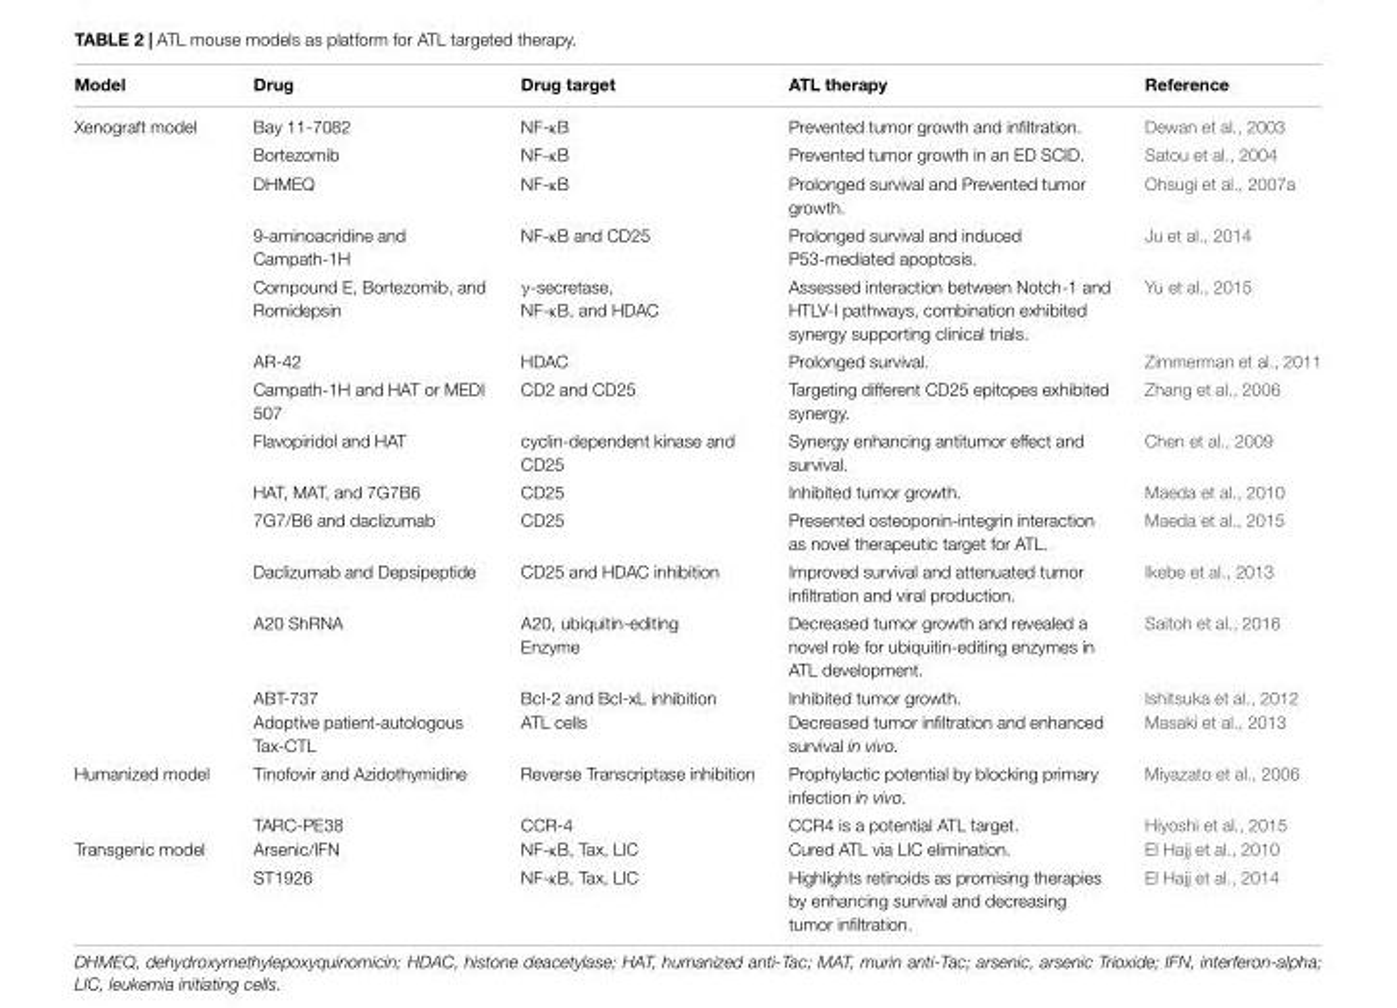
<table><thead><tr><td>Model</td><td>Drug</td><td>Drug target</td><td>ATL therapy</td><td>Reference</td></tr></thead><tbody><tr><td rowspan="14">Xenograft model</td><td>Bay 11-7082</td><td>NF-κB</td><td>Prevented tumor growth and infiltration.</td><td>Dewan et al., 2003</td></tr><tr><td>Bortezomib</td><td>NF-κB</td><td>Prevented tumor growth in an ED SCID.</td><td>Satou et al., 2004</td></tr><tr><td>DHMEQ</td><td>NF-κB</td><td>Prolonged survival and Prevented tumor growth.</td><td>Ohsugi et al., 2007a</td></tr><tr><td>9-aminoacridine and Campath-1H</td><td>NF-κB and CD25</td><td>Prolonged survival and induced P53-mediated apoptosis.</td><td>Ju et al., 2014</td></tr><tr><td>Compound E, Bortezomib, and Romidepsin</td><td>γ-secretase, NF-κB, and HDAC</td><td>Assessed interaction between Notch-1 and HTLV-I pathways, combination exhibited synergy supporting clinical trials.</td><td>Yu et al., 2015</td></tr><tr><td>AR-42</td><td>HDAC</td><td>Prolonged survival.</td><td>Zimmerman et al., 2011</td></tr><tr><td>Campath-1H and HAT or MEDI 507</td><td>CD2 and CD25</td><td>Targeting different CD25 epitopes exhibited synergy.</td><td>Zhang et al., 2006</td></tr><tr><td>Flavopiridol and HAT</td><td>cyclin-dependent kinase and CD25</td><td>Synergy enhancing antitumor effect and survival.</td><td>Chen et al., 2009</td></tr><tr><td>HAT, MAT, and 7G7B6</td><td>CD25</td><td>Inhibited tumor growth.</td><td>Maeda et al., 2010</td></tr><tr><td>7G7/B6 and daclizumab</td><td>CD25</td><td>Presented osteoponin-integrin interaction as novel therapeutic target for ATL.</td><td>Maeda et al., 2015</td></tr><tr><td>Daclizumab and Depsipeptide</td><td>CD25 and HDAC inhibition</td><td>Improved survival and attenuated tumor infiltration and viral production.</td><td>Ikebe et al., 2013</td></tr><tr><td>A20 ShRNA</td><td>A20, ubiquitin-editing Enzyme</td><td>Decreased tumor growth and revealed a novel role for ubiquitin-editing enzymes in ATL development.</td><td>Saitoh et al., 2016</td></tr><tr><td>ABT-737</td><td>Bcl-2 and Bcl-xL inhibition</td><td>Inhibited tumor growth.</td><td>Ishitsuka et al., 2012</td></tr><tr><td>Adoptive patient-autologous Tax-CTL</td><td>ATL cells</td><td>Decreased tumor infiltration and enhanced survival in vivo.</td><td>Masaki et al., 2013</td></tr><tr><td rowspan="2">Humanized model</td><td>Tinofovir and Azidothymidine</td><td>Reverse Transcriptase inhibition</td><td>Prophylactic potential by blocking primary infection in vivo.</td><td>Miyazato et al., 2006</td></tr><tr><td>TARC-PE38</td><td>CCR-4</td><td>CCR4 is a potential ATL target.</td><td>Hiyoshi et al., 2015</td></tr><tr><td rowspan="2">Transgenic model</td><td>Arsenic/IFN</td><td>NF-κB, Tax, LIC</td><td>Cured ATL via LIC elimination.</td><td>El Hajj et al., 2010</td></tr><tr><td>ST1926</td><td>NF-κB, Tax, LIC</td><td>Highlights retinoids as promising therapies by enhancing survival and decreasing tumor infiltration.</td><td>El Hajj et al., 2014</td></tr></tbody></table>